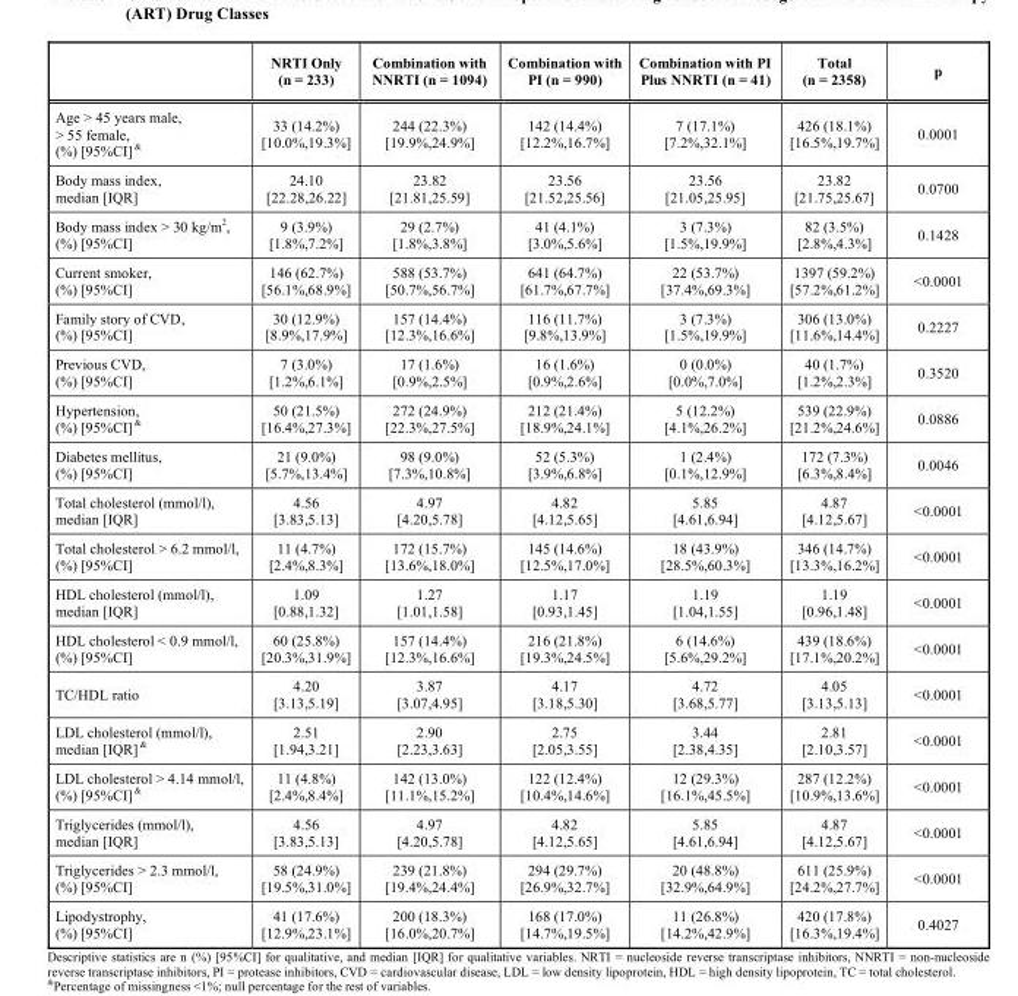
<table><thead><tr><td></td><td>NRTI Only (n = 233)</td><td>Combination with NNRTI (n = 1094)</td><td>Combination with PI (n = 990)</td><td>Combination with PI Plus NNRTI (n = 41)</td><td>Total (n = 2358)</td><td>p</td></tr></thead><tbody><tr><td>Age &gt; 45 years male, &gt; 55 female, (%) [95%CI] <sup>&amp;</sup></td><td>33 (14.2%) [10.0%,19.3%]</td><td>244 (22.3%) [19.9%,24.9%]</td><td>142 (14.4%) [12.2%,16.7%]</td><td>7 (17.1%) [7.2%,32.1%]</td><td>426 (18.1%) [16.5%,19.7%]</td><td>0.0001</td></tr><tr><td>Body mass index, median [IQR]</td><td>24.10 [22.28,26.22]</td><td>23.82 [21.81,25.59]</td><td>23.56 [21.52,25.56]</td><td>23.56 [21.05,25.95]</td><td>23.82 [21.75,25.67]</td><td>0.0700</td></tr><tr><td>Body mass index &gt; 30 kg/m<sup>2</sup>, (%) [95%CI]</td><td>9 (3.9%) [1.8%,7.2%]</td><td>29 (2.7%) [1.8%,3.8%]</td><td>41 (4.1%) [3.0%,5.6%]</td><td>3 (7.3%) [1.5%,19.9%]</td><td>82 (3.5%) [2.8%,4.3%]</td><td>0.1428</td></tr><tr><td>Current smoker, (%) [95%CI]</td><td>146 (62.7%) [56.1%,68.9%]</td><td>588 (53.7%) [50.7%,56.7%]</td><td>641 (64.7%) [61.7%,67.7%]</td><td>22 (53.7%) [37.4%,69.3%]</td><td>1397 (59.2%) [57.2%,61.2%]</td><td>&lt;0.0001</td></tr><tr><td>Family story of CVD, (%) [95%CI]</td><td>30 (12.9%) [8.9%,17.9%]</td><td>157 (14.4%) [12.3%,16.6%]</td><td>116 (11.7%) [9.8%,13.9%]</td><td>3 (7.3%) [1.5%,19.9%]</td><td>306 (13.0%) [11.6%,14.4%]</td><td>0.2227</td></tr><tr><td>Previous CVD, (%) [95%CI]</td><td>7 (3.0%) [1.2%,6.1%]</td><td>17 (1.6%) [0.9%,2.5%]</td><td>16 (1.6%) [0.9%,2.6%]</td><td>0 (0.0%) [0.0%,7.0%]</td><td>40 (1.7%) [1.2%,2.3%]</td><td>0.3520</td></tr><tr><td>Hypertension, (%) [95%CI] <sup>&amp;</sup></td><td>50 (21.5%) [16.4%,27.3%]</td><td>272 (24.9%) [22.3%,27.5%]</td><td>212 (21.4%) [18.9%,24.1%]</td><td>5 (12.2%) [4.1%,26.2%]</td><td>539 (22.9%) [21.2%,24.6%]</td><td>0.0886</td></tr><tr><td>Diabetes mellitus, (%) [95%CI]</td><td>21 (9.0%) [5.7%,13.4%]</td><td>98 (9.0%) [7.3%,10.8%]</td><td>52 (5.3%) [3.9%,6.8%]</td><td>1 (2.4%) [0.1%,12.9%]</td><td>172 (7.3%) [6.3%,8.4%]</td><td>0.0046</td></tr><tr><td>Total cholesterol (mmol/l), median [IQR]</td><td>4.56 [3.83,5.13]</td><td>4.97 [4.20,5.78]</td><td>4.82 [4.12,5.65]</td><td>5.85 [4.61,6.94]</td><td>4.87 [4.12,5.67]</td><td>&lt;0.0001</td></tr><tr><td>Total cholesterol &gt; 6.2 mmol/l, (%) [95%CI]</td><td>11 (4.7%) [2.4%,8.3%]</td><td>172 (15.7%) [13.6%,18.0%]</td><td>145 (14.6%) [12.5%,17.0%]</td><td>18 (43.9%) [28.5%,60.3%]</td><td>346 (14.7%) [13.3%,16.2%]</td><td>&lt;0.0001</td></tr><tr><td>HDL cholesterol (mmol/l), median [IQR]</td><td>1.09 [0.88,1.32]</td><td>1.27 [1.01,1.58]</td><td>1.17 [0.93,1.45]</td><td>1.19 [1.04,1.55]</td><td>1.19 [0.96,1.48]</td><td>&lt;0.0001</td></tr><tr><td>HDL cholesterol &lt; 0.9 mmol/l, (%) [95%CI]</td><td>60 (25.8%) [20.3%,31.9%]</td><td>157 (14.4%) [12.3%,16.6%]</td><td>216 (21.8%) [19.3%,24.5%]</td><td>6 (14.6%) [5.6%,29.2%]</td><td>439 (18.6%) [17.1%,20.2%]</td><td>&lt;0.0001</td></tr><tr><td>TC/HDL ratio</td><td>4.20 [3.13,5.19]</td><td>3.87 [3.07,4.95]</td><td>4.17 [3.18,5.30]</td><td>4.72 [3.68,5.77]</td><td>4.05 [3.13,5.13]</td><td>&lt;0.0001</td></tr><tr><td>LDL cholesterol (mmol/l), median [IQR] <sup>&amp;</sup></td><td>2.51 [1.94,3.21]</td><td>2.90 [2.23,3.63]</td><td>2.75 [2.05,3.55]</td><td>3.44 [2.38,4.35]</td><td>2.81 [2.10,3.57]</td><td>&lt;0.0001</td></tr><tr><td>LDL cholesterol &gt; 4.14 mmol/l, (%) [95%CI] <sup>&amp;</sup></td><td>11 (4.8%) [2.4%,8.4%]</td><td>142 (13.0%) [11.1%,15.2%]</td><td>122 (12.4%) [10.4%,14.6%]</td><td>12 (29.3%) [16.1%,45.5%]</td><td>287 (12.2%) [10.9%,13.6%]</td><td>&lt;0.0001</td></tr><tr><td>Triglycerides (mmol/l), median [IQR]</td><td>4.56 [3.83,5.13]</td><td>4.97 [4.20,5.78]</td><td>4.82 [4.12,5.65]</td><td>5.85 [4.61,6.94]</td><td>4.87 [4.12,5.67]</td><td>&lt;0.0001</td></tr><tr><td>Triglycerides &gt; 2.3 mmol/l, (%) [95%CI]</td><td>58 (24.9%) [19.5%,31.0%]</td><td>239 (21.8%) [19.4%,24.4%]</td><td>294 (29.7%) [26.9%,32.7%]</td><td>20 (48.8%) [32.9%,64.9%]</td><td>611 (25.9%) [24.2%,27.7%]</td><td>&lt;0.0001</td></tr><tr><td>Lipodystrophy, (%) [95%CI]</td><td>41 (17.6%) [12.9%,23.1%]</td><td>200 (18.3%) [16.0%,20.7%]</td><td>168 (17.0%) [14.7%,19.5%]</td><td>11 (26.8%) [14.2%,42.9%]</td><td>420 (17.8%) [16.3%,19.4%]</td><td>0.4027</td></tr></tbody></table>